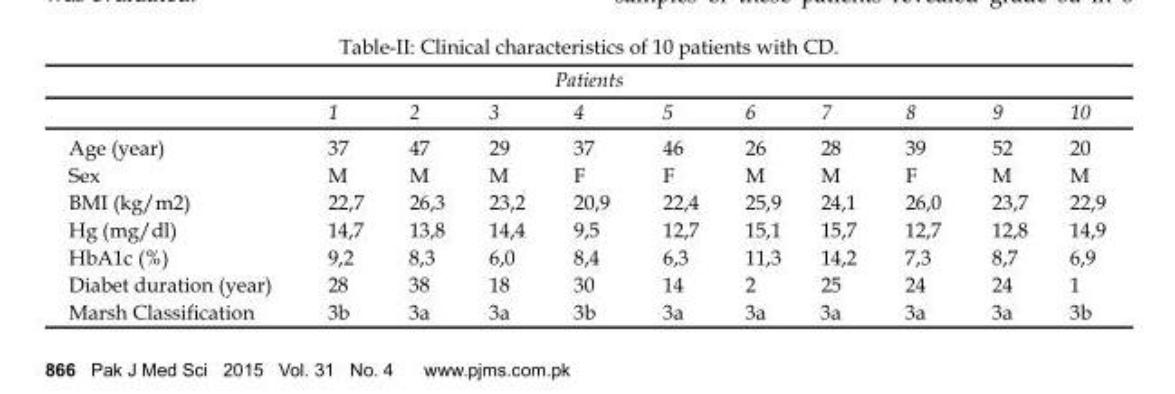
<table><thead><tr><td rowspan="2"></td><td colspan="10">Patients</td></tr><tr><td>1</td><td>2</td><td>3</td><td>4</td><td>5</td><td>6</td><td>7</td><td>8</td><td>9</td><td>10</td></tr></thead><tbody><tr><td>Age (year)</td><td>37</td><td>47</td><td>29</td><td>37</td><td>46</td><td>26</td><td>28</td><td>39</td><td>52</td><td>20</td></tr><tr><td>Sex</td><td>M</td><td>M</td><td>M</td><td>F</td><td>F</td><td>M</td><td>M</td><td>F</td><td>M</td><td>M</td></tr><tr><td>BMI (kg/m<sup>2</sup>)</td><td>22,7</td><td>26,3</td><td>23,2</td><td>20,9</td><td>22,4</td><td>25,9</td><td>24,1</td><td>26,0</td><td>23,7</td><td>22,9</td></tr><tr><td>Hg (mg/dl)</td><td>14,7</td><td>13,8</td><td>14,4</td><td>9,5</td><td>12,7</td><td>15,1</td><td>15,7</td><td>12,7</td><td>12,8</td><td>14,9</td></tr><tr><td>HbA1c (%)</td><td>9,2</td><td>8,3</td><td>6,0</td><td>8,4</td><td>6,3</td><td>11,3</td><td>14,2</td><td>7,3</td><td>8,7</td><td>6,9</td></tr><tr><td>Diabet duration (year)</td><td>28</td><td>38</td><td>18</td><td>30</td><td>14</td><td>2</td><td>25</td><td>24</td><td>24</td><td>1</td></tr><tr><td>Marsh Classification</td><td>3b</td><td>3a</td><td>3a</td><td>3b</td><td>3a</td><td>3a</td><td>3a</td><td>3a</td><td>3a</td><td>3b</td></tr></tbody></table>